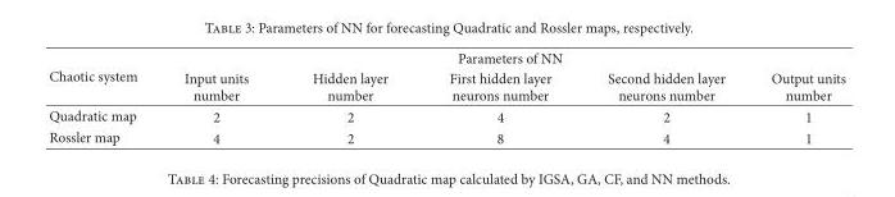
<table><thead><tr><td rowspan="2">Chaotic system</td><td colspan="5">Parameters of NN</td></tr><tr><td>Input units number</td><td>Hidden layer number</td><td>First hidden layer neurons number</td><td>Second hidden layer neurons number</td><td>Output units number</td></tr></thead><tbody><tr><td>Quadratic map</td><td>2</td><td>2</td><td>4</td><td>2</td><td>1</td></tr><tr><td>Rossler map</td><td>4</td><td>2</td><td>8</td><td>4</td><td>1</td></tr></tbody></table>